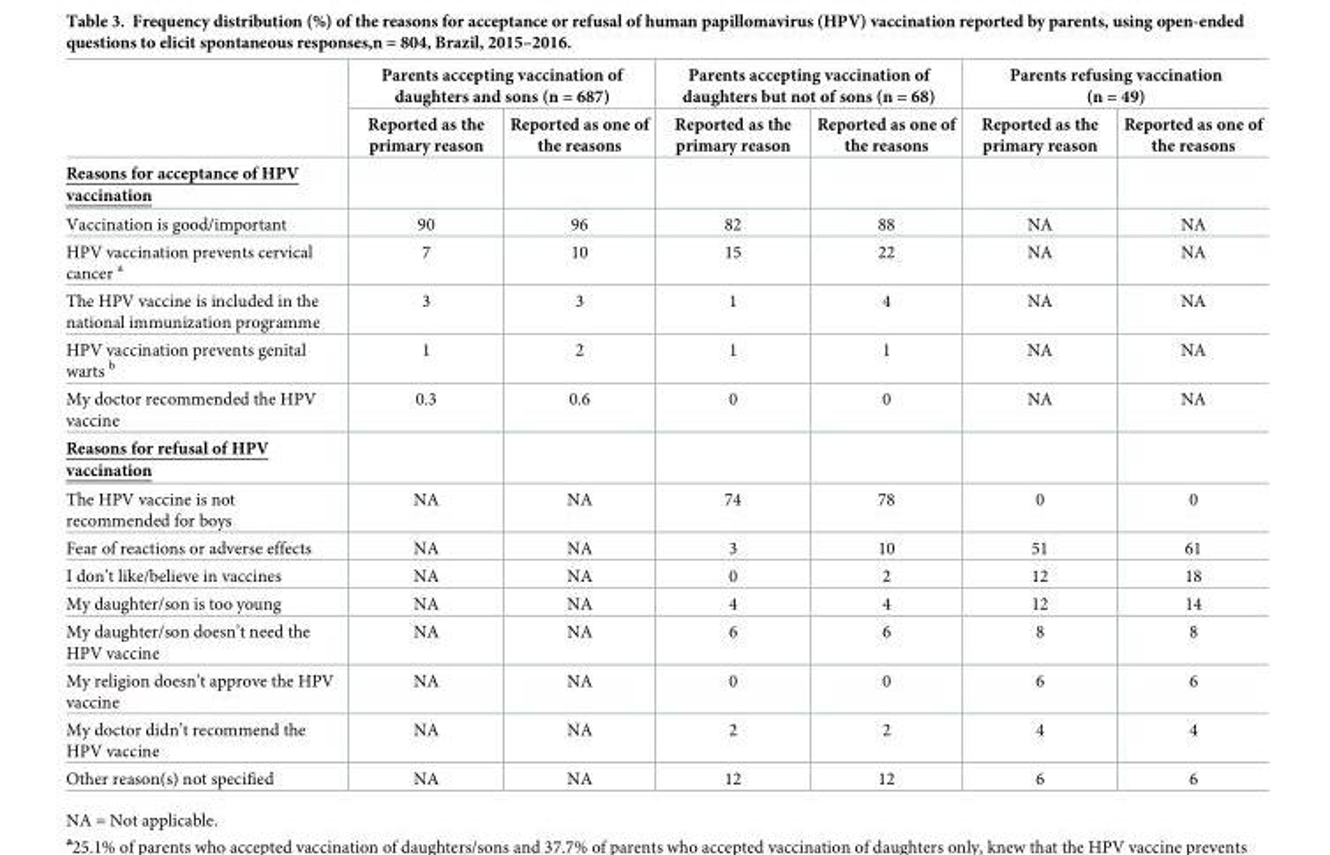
<table><thead><tr><td rowspan="2"></td><td colspan="2">Parents accepting vaccination of daughters and sons (n = 687)</td><td colspan="2">Parents accepting vaccination of daughters but not of sons (n = 68)</td><td colspan="2">Parents refusing vaccination (n = 49)</td></tr><tr><td>Reported as the primary reason</td><td>Reported as one of the reasons</td><td>Reported as the primary reason</td><td>Reported as one of the reasons</td><td>Reported as the primary reason</td><td>Reported as one of the reasons</td></tr></thead><tbody><tr><td colspan="7">Reasons for acceptance of HPV vaccination</td></tr><tr><td>Vaccination is good/important</td><td>90</td><td>96</td><td>82</td><td>88</td><td>NA</td><td>NA</td></tr><tr><td>HPV vaccination prevents cervical cancer <sup>a</sup></td><td>7</td><td>10</td><td>15</td><td>22</td><td>NA</td><td>NA</td></tr><tr><td>The HPV vaccine is included in the national immunization programme</td><td>3</td><td>3</td><td>1</td><td>4</td><td>NA</td><td>NA</td></tr><tr><td>HPV vaccination prevents genital warts <sup>b</sup></td><td>1</td><td>2</td><td>1</td><td>1</td><td>NA</td><td>NA</td></tr><tr><td>My doctor recommended the HPV vaccine</td><td>0.3</td><td>0.6</td><td>0</td><td>0</td><td>NA</td><td>NA</td></tr><tr><td colspan="7">Reasons for refusal of HPV vaccination</td></tr><tr><td>The HPV vaccine is not recommended for boys</td><td>NA</td><td>NA</td><td>74</td><td>78</td><td>0</td><td>0</td></tr><tr><td>Fear of reactions or adverse effects</td><td>NA</td><td>NA</td><td>3</td><td>10</td><td>51</td><td>61</td></tr><tr><td>I don’t like/believe in vaccines</td><td>NA</td><td>NA</td><td>0</td><td>2</td><td>12</td><td>18</td></tr><tr><td>My daughter/son is too young</td><td>NA</td><td>NA</td><td>4</td><td>4</td><td>12</td><td>14</td></tr><tr><td>My daughter/son doesn’t need the HPV vaccine</td><td>NA</td><td>NA</td><td>6</td><td>6</td><td>8</td><td>8</td></tr><tr><td>My religion doesn’t approve the HPV vaccine</td><td>NA</td><td>NA</td><td>0</td><td>0</td><td>6</td><td>6</td></tr><tr><td>My doctor didn’t recommend the HPV vaccine</td><td>NA</td><td>NA</td><td>2</td><td>2</td><td>4</td><td>4</td></tr><tr><td>Other reason(s) not specified</td><td>NA</td><td>NA</td><td>12</td><td>12</td><td>6</td><td>6</td></tr></tbody></table>